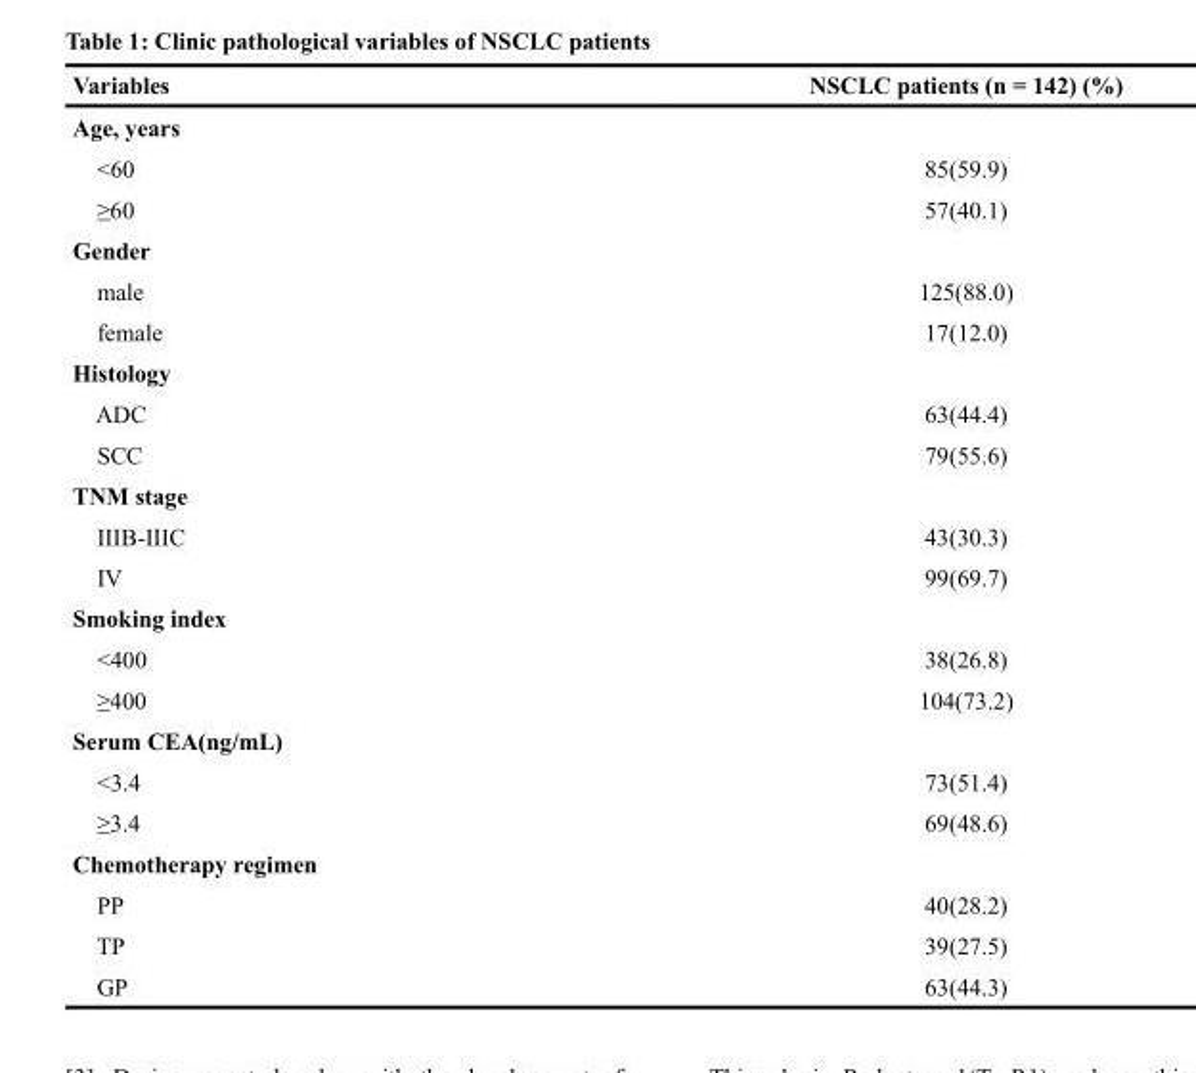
<table><thead><tr><td>Variables</td><td>NSCLC patients (n = 142) (%)</td></tr></thead><tbody><tr><td colspan="2">Age, years</td></tr><tr><td>&lt;60</td><td>85(59.9)</td></tr><tr><td>≥60</td><td>57(40.1)</td></tr><tr><td colspan="2">Gender</td></tr><tr><td>male</td><td>125(88.0)</td></tr><tr><td>female</td><td>17(12.0)</td></tr><tr><td colspan="2">Histology</td></tr><tr><td>ADC</td><td>63(44.4)</td></tr><tr><td>SCC</td><td>79(55.6)</td></tr><tr><td colspan="2">TNM stage</td></tr><tr><td>IIIB-IIIC</td><td>43(30.3)</td></tr><tr><td>IV</td><td>99(69.7)</td></tr><tr><td colspan="2">Smoking index</td></tr><tr><td>&lt;400</td><td>38(26.8)</td></tr><tr><td>≥400</td><td>104(73.2)</td></tr><tr><td colspan="2">Serum CEA(ng/mL)</td></tr><tr><td>&lt;3.4</td><td>73(51.4)</td></tr><tr><td>≥3.4</td><td>69(48.6)</td></tr><tr><td colspan="2">Chemotherapy regimen</td></tr><tr><td>PP</td><td>40(28.2)</td></tr><tr><td>TP</td><td>39(27.5)</td></tr><tr><td>GP</td><td>63(44.3)</td></tr></tbody></table>